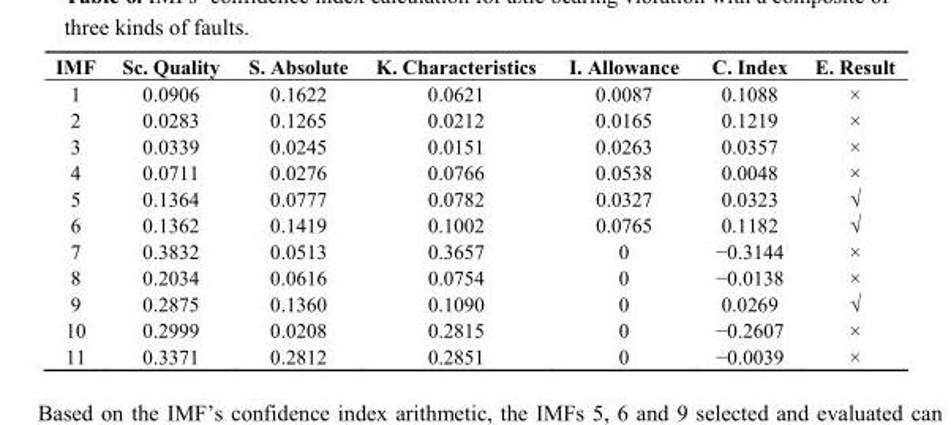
<table><thead><tr><td>IMF</td><td>Sc. Quality</td><td>S. Absolute</td><td>K. Characteristics</td><td>I. Allowance</td><td>C. Index</td><td>E. Result</td></tr></thead><tbody><tr><td>1</td><td>0.0906</td><td>0.1622</td><td>0.0621</td><td>0.0087</td><td>0.1088</td><td>×</td></tr><tr><td>2</td><td>0.0283</td><td>0.1265</td><td>0.0212</td><td>0.0165</td><td>0.1219</td><td>×</td></tr><tr><td>3</td><td>0.0339</td><td>0.0245</td><td>0.0151</td><td>0.0263</td><td>0.0357</td><td>×</td></tr><tr><td>4</td><td>0.0711</td><td>0.0276</td><td>0.0766</td><td>0.0538</td><td>0.0048</td><td>×</td></tr><tr><td>5</td><td>0.1364</td><td>0.0777</td><td>0.0782</td><td>0.0327</td><td>0.0323</td><td>√</td></tr><tr><td>6</td><td>0.1362</td><td>0.1419</td><td>0.1002</td><td>0.0765</td><td>0.1182</td><td>√</td></tr><tr><td>7</td><td>0.3832</td><td>0.0513</td><td>0.3657</td><td>0</td><td>−0.3144</td><td>×</td></tr><tr><td>8</td><td>0.2034</td><td>0.0616</td><td>0.0754</td><td>0</td><td>−0.0138</td><td>×</td></tr><tr><td>9</td><td>0.2875</td><td>0.1360</td><td>0.1090</td><td>0</td><td>0.0269</td><td>√</td></tr><tr><td>10</td><td>0.2999</td><td>0.0208</td><td>0.2815</td><td>0</td><td>−0.2607</td><td>×</td></tr><tr><td>11</td><td>0.3371</td><td>0.2812</td><td>0.2851</td><td>0</td><td>−0.0039</td><td>×</td></tr></tbody></table>